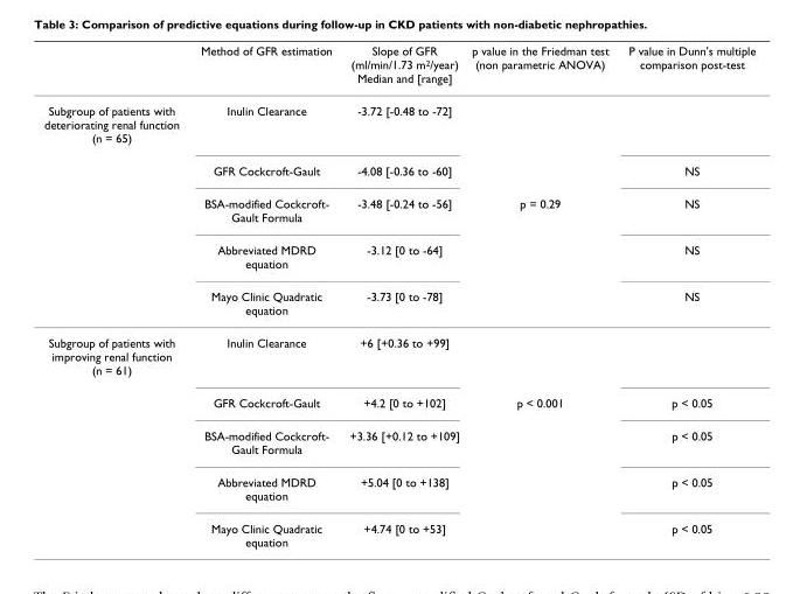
<table><thead><tr><td></td><td>Method of GFR estimation</td><td>Slope of GFR (ml/min/1.73 m<sup>2</sup>/year) Median and [range]</td><td>p value in the Friedman test (non parametric ANOVA)</td><td>P value in Dunn&#x27;s multiple comparison post-test</td></tr></thead><tbody><tr><td rowspan="5">Subgroup of patients with deteriorating renal function (n = 65)</td><td>Inulin Clearance</td><td>-3.72 [-0.48 to -72]</td><td></td><td></td></tr><tr><td>GFR Cockcroft-Gault</td><td>-4.08 [-0.36 to -60]</td><td></td><td>NS</td></tr><tr><td>BSA-modified Cockcroft- Gault Formula</td><td>-3.48 [-0.24 to -56]</td><td>p = 0.29</td><td>NS</td></tr><tr><td>Abbreviated MDRD equation</td><td>-3.12 [0 to -64]</td><td></td><td>NS</td></tr><tr><td>Mayo Clinic Quadratic equation</td><td>-3.73 [0 to -78]</td><td></td><td>NS</td></tr><tr><td rowspan="5">Subgroup of patients with improving renal function (n = 61)</td><td>Inulin Clearance</td><td>+6 [+0.36 to +99]</td><td></td><td></td></tr><tr><td>GFR Cockcroft-Gault</td><td>+4.2 [0 to +102]</td><td>p &lt; 0.001</td><td>p &lt; 0.05</td></tr><tr><td>BSA-modified Cockcroft- Gault Formula</td><td>+3.36 [+0.12 to +109]</td><td></td><td>p &lt; 0.05</td></tr><tr><td>Abbreviated MDRD equation</td><td>+5.04 [0 to +138]</td><td></td><td>p &lt; 0.05</td></tr><tr><td>Mayo Clinic Quadratic equation</td><td>+4.74 [0 to +53]</td><td></td><td>p &lt; 0.05</td></tr></tbody></table>